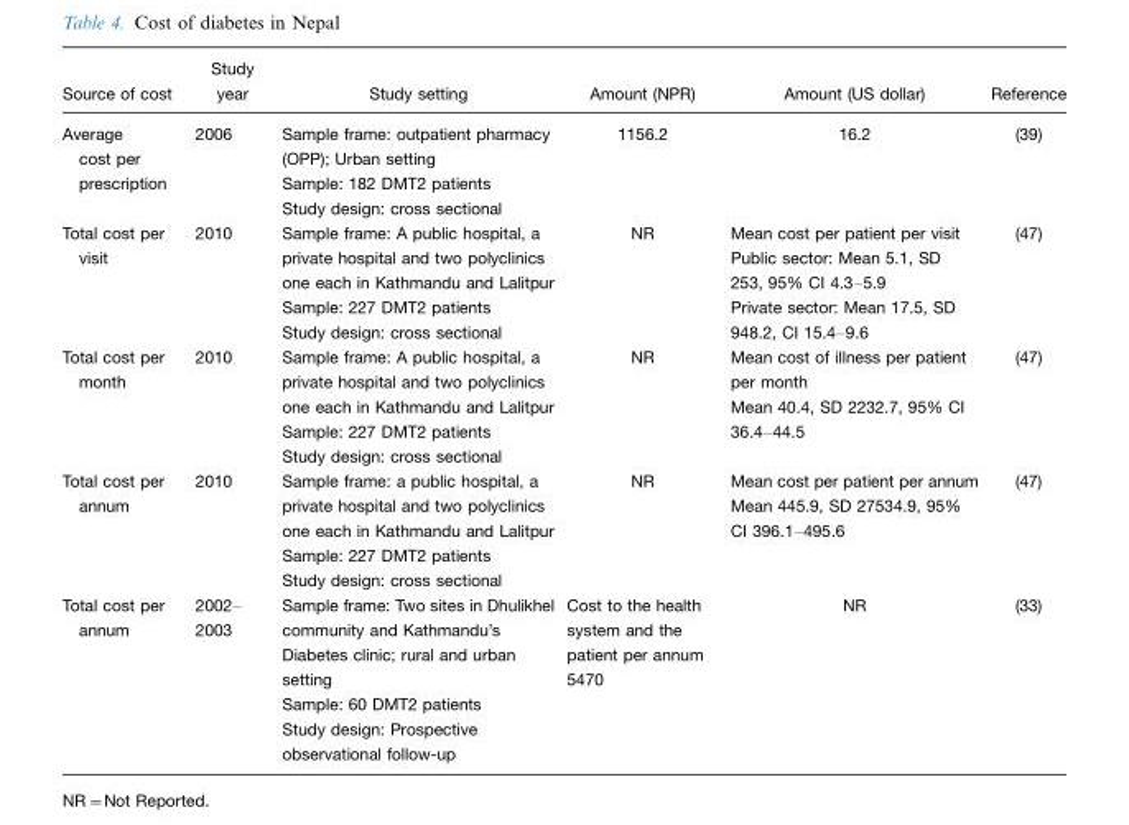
<table><thead><tr><td>Source of cost</td><td>Study year</td><td>Study setting</td><td>Amount (NPR)</td><td>Amount (US dollar)</td><td>Reference</td></tr></thead><tbody><tr><td>Average cost per prescription</td><td>2006</td><td>Sample frame: outpatient pharmacy (OPP); Urban setting Sample: 182 DMT2 patients Study design: cross sectional</td><td>1156.2</td><td>16.2</td><td>(39)</td></tr><tr><td>Total cost per visit</td><td>2010</td><td>Sample frame: A public hospital, a private hospital and two polyclinics one each in Kathmandu and Lalitpur Sample: 227 DMT2 patients Study design: cross sectional</td><td>NR</td><td>Mean cost per patient per visit Public sector: Mean 5.1, SD 253, 95% CI 4.3–5.9 Private sector: Mean 17.5, SD 948.2, CI 15.4–9.6</td><td>(47)</td></tr><tr><td>Total cost per month</td><td>2010</td><td>Sample frame: A public hospital, a private hospital and two polyclinics one each in Kathmandu and Lalitpur Sample: 227 DMT2 patients Study design: cross sectional</td><td>NR</td><td>Mean cost of illness per patient per month Mean 40.4, SD 2232.7, 95% CI 36.4–44.5</td><td>(47)</td></tr><tr><td>Total cost per annum</td><td>2010</td><td>Sample frame: a public hospital, a private hospital and two polyclinics one each in Kathmandu and Lalitpur Sample: 227 DMT2 patients Study design: cross sectional</td><td>NR</td><td>Mean cost per patient per annum Mean 445.9, SD 27534.9, 95% CI 396.1–495.6</td><td>(47)</td></tr><tr><td>Total cost per annum</td><td>2002– 2003</td><td>Sample frame: Two sites in Dhulikhel community and Kathmandu’s Diabetes clinic; rural and urban setting Sample: 60 DMT2 patients Study design: Prospective observational follow-up</td><td>Cost to the health system and the patient per annum 5470</td><td>NR</td><td>(33)</td></tr></tbody></table>